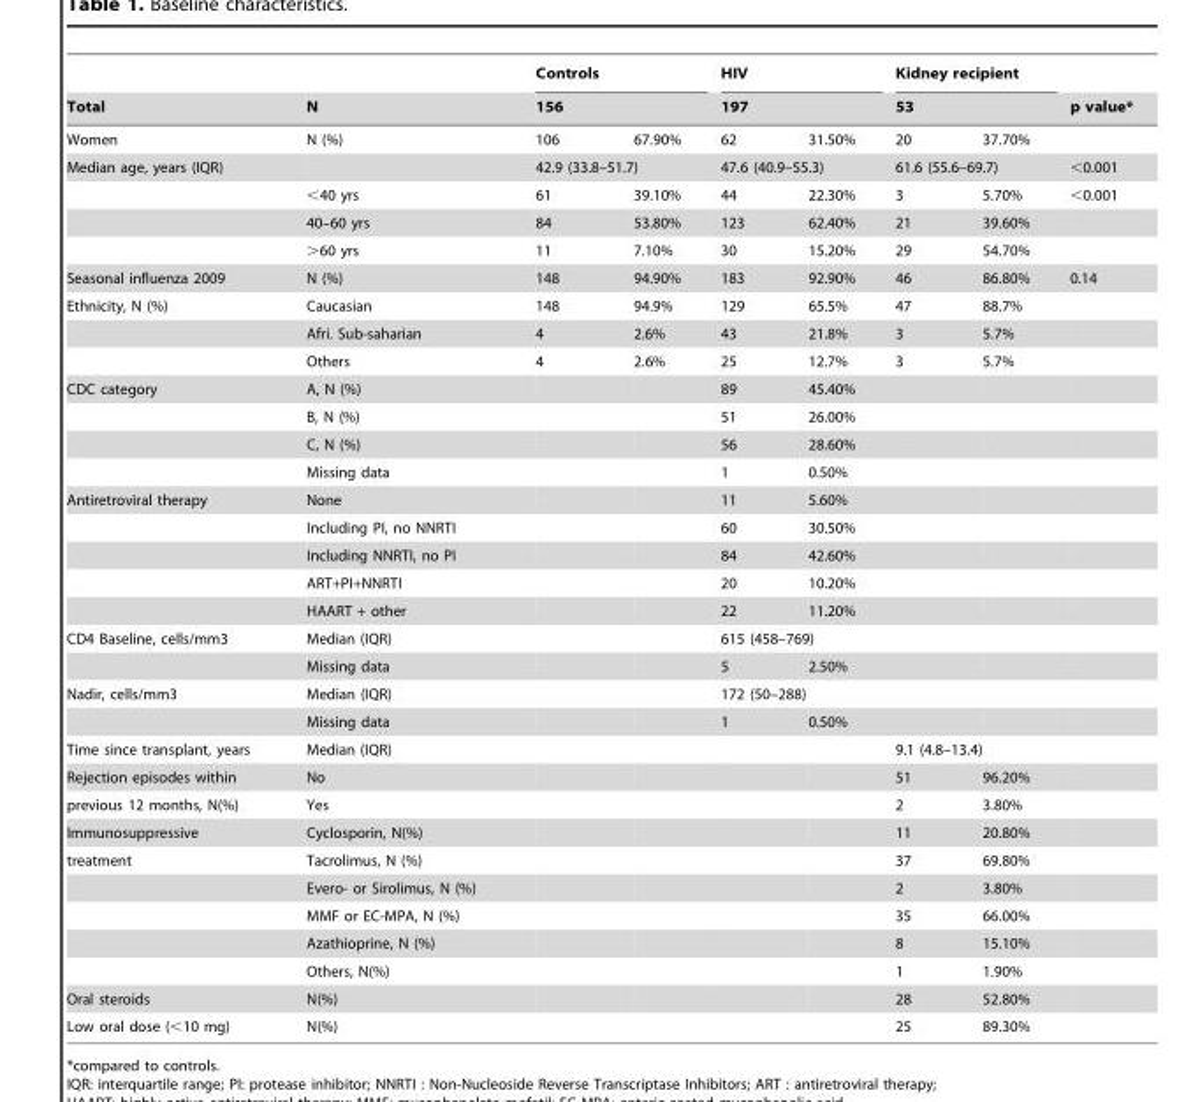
<table><thead><tr><td rowspan="3">Total Women</td><td rowspan="3">N N (%)</td><td rowspan="2" colspan="2">Controls 156</td><td rowspan="2" colspan="2">HIV 197</td><td rowspan="2" colspan="2">Kidney recipient 53</td><td rowspan="3">p value*</td></tr><tr></tr><tr><td>106</td><td>67.90%</td><td>62</td><td>31.50%</td><td>20</td><td>37.70%</td></tr></thead><tbody><tr><td rowspan="4">Median age, years (IQR)</td><td></td><td colspan="2">42.9 (33.8–51.7)</td><td colspan="2">47.6 (40.9–55.3)</td><td colspan="2">61.6 (55.6–69.7)</td><td>&lt;0.001</td></tr><tr><td>&lt;40 yrs</td><td>61</td><td>39.10%</td><td>44</td><td>22.30%</td><td>3</td><td>5.70%</td><td>&lt;0.001</td></tr><tr><td>40–60 yrs</td><td>84</td><td>53.80%</td><td>123</td><td>62.40%</td><td>21</td><td>39.60%</td><td></td></tr><tr><td>&gt;60 yrs</td><td>11</td><td>7.10%</td><td>30</td><td>15.20%</td><td>29</td><td>54.70%</td><td></td></tr><tr><td>Seasonal influenza 2009</td><td>N (%)</td><td>148</td><td>94.90%</td><td>183</td><td>92.90%</td><td>46</td><td>86.80%</td><td>0.14</td></tr><tr><td rowspan="3">Ethnicity, N (%)</td><td>Caucasian</td><td>148</td><td>94.9%</td><td>129</td><td>65.5%</td><td>47</td><td>88.7%</td><td></td></tr><tr><td>Afri. Sub-saharian</td><td>4</td><td>2.6%</td><td>43</td><td>21.8%</td><td>3</td><td>5.7%</td><td></td></tr><tr><td>Others</td><td>4</td><td>2.6%</td><td>25</td><td>12.7%</td><td>3</td><td>5.7%</td><td></td></tr><tr><td rowspan="4">CDC category</td><td>A, N (%)</td><td></td><td></td><td>89</td><td>45.40%</td><td></td><td></td><td></td></tr><tr><td>B, N (%)</td><td></td><td></td><td>51</td><td>26.00%</td><td></td><td></td><td></td></tr><tr><td>C, N (%)</td><td></td><td></td><td>56</td><td>28.60%</td><td></td><td></td><td></td></tr><tr><td>Missing data</td><td></td><td></td><td>1</td><td>0.50%</td><td></td><td></td><td></td></tr><tr><td rowspan="5">Antiretroviral therapy</td><td>None</td><td></td><td></td><td>11</td><td>5.60%</td><td></td><td></td><td></td></tr><tr><td>Including PI, no NNRTI</td><td></td><td></td><td>60</td><td>30.50%</td><td></td><td></td><td></td></tr><tr><td>Including NNRTI, no PI</td><td></td><td></td><td>84</td><td>42.60%</td><td></td><td></td><td></td></tr><tr><td>ART+PI+NNRTI</td><td></td><td></td><td>20</td><td>10.20%</td><td></td><td></td><td></td></tr><tr><td>HAART + other</td><td></td><td></td><td>22</td><td>11.20%</td><td></td><td></td><td></td></tr><tr><td rowspan="2">CD4 Baseline, cells/mm3</td><td>Median (IQR)</td><td></td><td></td><td colspan="2">615 (458–769)</td><td></td><td></td><td></td></tr><tr><td>Missing data</td><td></td><td></td><td>5</td><td>2.50%</td><td></td><td></td><td></td></tr><tr><td rowspan="2">Nadir, cells/mm3</td><td>Median (IQR)</td><td></td><td></td><td colspan="2">172 (50–288)</td><td></td><td></td><td></td></tr><tr><td>Missing data</td><td></td><td></td><td>1</td><td>0.50%</td><td></td><td></td><td></td></tr><tr><td>Time since transplant, years</td><td>Median (IQR)</td><td></td><td></td><td></td><td></td><td colspan="2">9.1 (4.8–13.4)</td><td></td></tr><tr><td>Rejection episodes within</td><td>No</td><td></td><td></td><td></td><td></td><td>51</td><td>96.20%</td><td></td></tr><tr><td>previous 12 months, N(%)</td><td>Yes</td><td></td><td></td><td></td><td></td><td>2</td><td>3.80%</td><td></td></tr><tr><td>Immunosuppressive</td><td>Cyclosporin, N(%)</td><td></td><td></td><td></td><td></td><td>11</td><td>20.80%</td><td></td></tr><tr><td rowspan="5">treatment</td><td>Tacrolimus, N (%)</td><td></td><td></td><td></td><td></td><td>37</td><td>69.80%</td><td></td></tr><tr><td>Evero- or Sirolimus, N (%)</td><td></td><td></td><td></td><td></td><td>2</td><td>3.80%</td><td></td></tr><tr><td>MMF or EC-MPA, N (%)</td><td></td><td></td><td></td><td></td><td>35</td><td>66.00%</td><td></td></tr><tr><td>Azathioprine, N (%)</td><td></td><td></td><td></td><td></td><td>8</td><td>15.10%</td><td></td></tr><tr><td>Others, N(%)</td><td></td><td></td><td></td><td></td><td>1</td><td>1.90%</td><td></td></tr><tr><td>Oral steroids</td><td>N(%)</td><td></td><td></td><td></td><td></td><td>28</td><td>52.80%</td><td></td></tr><tr><td>Low oral dose (&lt;10 mg)</td><td>N(%)</td><td></td><td></td><td></td><td></td><td>25</td><td>89.30%</td><td></td></tr></tbody></table>